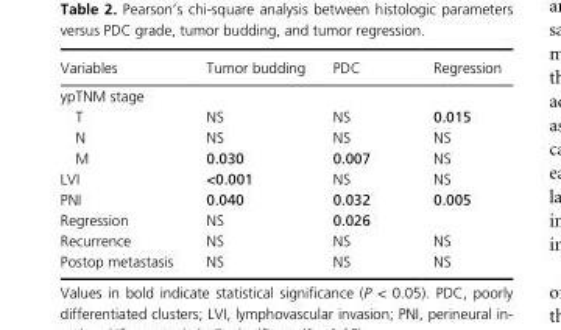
<table><thead><tr><td>Variables</td><td>Tumor budding</td><td>PDC</td><td>Regression</td></tr></thead><tbody><tr><td colspan="4">ypTNM stage</td></tr><tr><td>T</td><td>NS</td><td>NS</td><td>0.015</td></tr><tr><td>N</td><td>NS</td><td>NS</td><td>NS</td></tr><tr><td>M</td><td>0.030</td><td>0.007</td><td>NS</td></tr><tr><td>LVI</td><td>&lt;0.001</td><td>NS</td><td>NS</td></tr><tr><td>PNI</td><td>0.040</td><td>0.032</td><td>0.005</td></tr><tr><td>Regression</td><td>NS</td><td>0.026</td><td></td></tr><tr><td>Recurrence</td><td>NS</td><td>NS</td><td>NS</td></tr><tr><td>Postop metastasis</td><td>NS</td><td>NS</td><td>NS</td></tr></tbody></table>